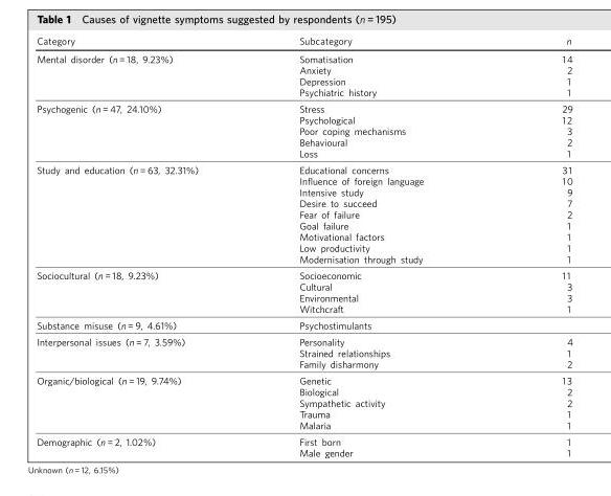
<table><thead><tr><td>Category</td><td>Subcategory</td><td>n</td></tr></thead><tbody><tr><td rowspan="4">Mental disorder (n = 18, 9.23%)</td><td>Somatisation</td><td>14</td></tr><tr><td>Anxiety</td><td>2</td></tr><tr><td>Depression</td><td>1</td></tr><tr><td>Psychiatric history</td><td>1</td></tr><tr><td rowspan="5">Psychogenic (n = 47, 24.10%)</td><td>Stress</td><td>29</td></tr><tr><td>Psychological</td><td>12</td></tr><tr><td>Poor coping mechanisms</td><td>3</td></tr><tr><td>Behavioural</td><td>2</td></tr><tr><td>Loss</td><td>1</td></tr><tr><td rowspan="9">Study and education (n = 63, 32.31%)</td><td>Educational concerns</td><td>31</td></tr><tr><td>Influence of foreign language</td><td>10</td></tr><tr><td>Intensive study</td><td>9</td></tr><tr><td>Desire to succeed</td><td>7</td></tr><tr><td>Fear of failure</td><td>2</td></tr><tr><td>Goal failure</td><td>1</td></tr><tr><td>Motivational factors</td><td>1</td></tr><tr><td>Low productivity</td><td>1</td></tr><tr><td>Modernisation through study</td><td>1</td></tr><tr><td rowspan="4">Sociocultural (n = 18, 9.23%)</td><td>Socioeconomic</td><td>11</td></tr><tr><td>Cultural</td><td>3</td></tr><tr><td>Environmental</td><td>3</td></tr><tr><td>Witchcraft</td><td>1</td></tr><tr><td>Substance misuse (n = 9, 4.61%)</td><td>Psychostimulants</td><td></td></tr><tr><td rowspan="3">Interpersonal issues (n = 7, 3.59%)</td><td>Personality</td><td>4</td></tr><tr><td>Strained relationships</td><td>1</td></tr><tr><td>Family disharmony</td><td>2</td></tr><tr><td rowspan="5">Organic/biological (n = 19, 9.74%)</td><td>Genetic</td><td>13</td></tr><tr><td>Biological</td><td>2</td></tr><tr><td>Sympathetic activity</td><td>2</td></tr><tr><td>Trauma</td><td>1</td></tr><tr><td>Malaria</td><td>1</td></tr><tr><td rowspan="2">Demographic (n = 2, 1.02%)</td><td>First born</td><td>1</td></tr><tr><td>Male gender</td><td>1</td></tr></tbody></table>